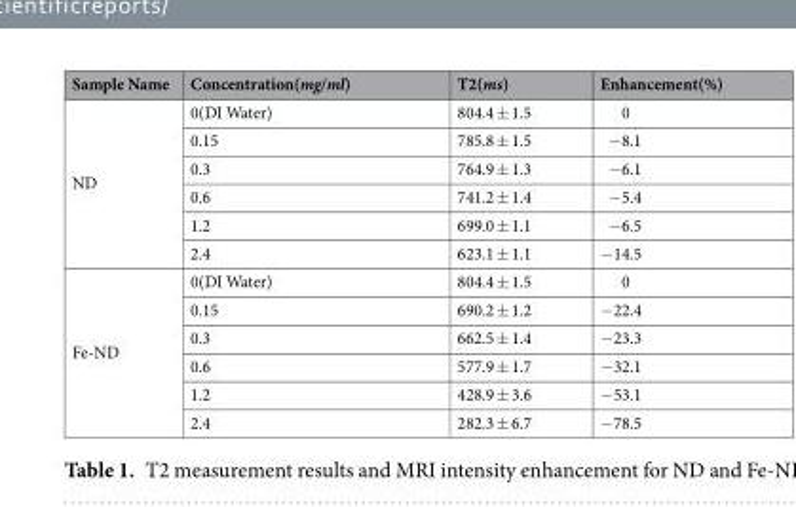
<table><thead><tr><td>Sample Name</td><td>Concentration(mg/ml)</td><td>T2(ms)</td><td>Enhancement(%)</td></tr></thead><tbody><tr><td rowspan="6">ND</td><td>0(DI Water)</td><td>804.4 ± 1.5</td><td>0</td></tr><tr><td>0.15</td><td>785.8 ± 1.5</td><td>−8.1</td></tr><tr><td>0.3</td><td>764.9 ± 1.3</td><td>−6.1</td></tr><tr><td>0.6</td><td>741.2 ± 1.4</td><td>−5.4</td></tr><tr><td>1.2</td><td>699.0 ± 1.1</td><td>−6.5</td></tr><tr><td>2.4</td><td>623.1 ± 1.1</td><td>−14.5</td></tr><tr><td rowspan="6">Fe-ND</td><td>0(DI Water)</td><td>804.4 ± 1.5</td><td>0</td></tr><tr><td>0.15</td><td>690.2 ± 1.2</td><td>−22.4</td></tr><tr><td>0.3</td><td>662.5 ± 1.4</td><td>−23.3</td></tr><tr><td>0.6</td><td>577.9 ± 1.7</td><td>−32.1</td></tr><tr><td>1.2</td><td>428.9 ± 3.6</td><td>−53.1</td></tr><tr><td>2.4</td><td>282.3 ± 6.7</td><td>−78.5</td></tr></tbody></table>